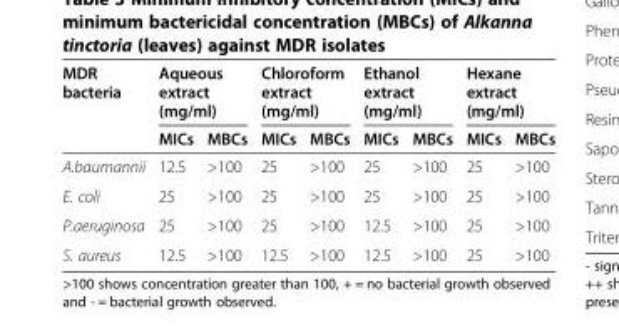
<table><thead><tr><td rowspan="2">MDR bacteria</td><td colspan="2">Aqueous extract (mg/ml)</td><td colspan="2">Chloroform extract (mg/ml)</td><td colspan="2">Ethanol extract (mg/ml)</td><td colspan="2">Hexane extract (mg/ml)</td></tr><tr><td>MICs</td><td>MBCs</td><td>MICs</td><td>MBCs</td><td>MICs</td><td>MBCs</td><td>MICs</td><td>MBCs</td></tr></thead><tbody><tr><td>A.baumannii</td><td>12.5</td><td>&gt;100</td><td>25</td><td>&gt;100</td><td>25</td><td>&gt;100</td><td>25</td><td>&gt;100</td></tr><tr><td>E. coli</td><td>25</td><td>&gt;100</td><td>25</td><td>&gt;100</td><td>25</td><td>&gt;100</td><td>25</td><td>&gt;100</td></tr><tr><td>P.aeruginosa</td><td>25</td><td>&gt;100</td><td>25</td><td>&gt;100</td><td>12.5</td><td>&gt;100</td><td>25</td><td>&gt;100</td></tr><tr><td>S. aureus</td><td>12.5</td><td>&gt;100</td><td>12.5</td><td>&gt;100</td><td>12.5</td><td>&gt;100</td><td>25</td><td>&gt;100</td></tr></tbody></table>